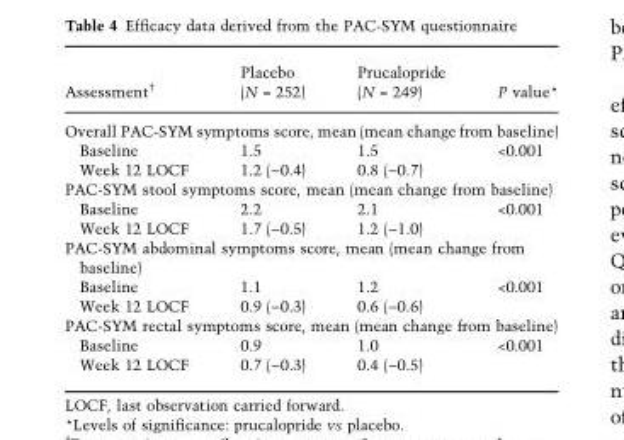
<table><thead><tr><td>Assessment†</td><td>Placebo (N = 252)</td><td>Prucalopride (N = 249)</td><td>P value*</td></tr></thead><tbody><tr><td colspan="4">Overall PAC-SYM symptoms score, mean (mean change from baseline)</td></tr><tr><td>Baseline</td><td>1.5</td><td>1.5</td><td>&lt;0.001</td></tr><tr><td>Week 12 LOCF</td><td>1.2 (−0.4)</td><td>0.8 (−0.7)</td><td></td></tr><tr><td colspan="4">PAC-SYM stool symptoms score, mean (mean change from baseline)</td></tr><tr><td>Baseline</td><td>2.2</td><td>2.1</td><td>&lt;0.001</td></tr><tr><td>Week 12 LOCF</td><td>1.7 (−0.5)</td><td>1.2 (−1.0)</td><td></td></tr><tr><td colspan="4">PAC-SYM abdominal symptoms score, mean (mean change from baseline)</td></tr><tr><td>Baseline</td><td>1.1</td><td>1.2</td><td>&lt;0.001</td></tr><tr><td>Week 12 LOCF</td><td>0.9 (−0.3)</td><td>0.6 (−0.6)</td><td></td></tr><tr><td colspan="4">PAC-SYM rectal symptoms score, mean (mean change from baseline)</td></tr><tr><td>Baseline</td><td>0.9</td><td>1.0</td><td>&lt;0.001</td></tr><tr><td>Week 12 LOCF</td><td>0.7 (−0.3)</td><td>0.4 (−0.5)</td><td></td></tr></tbody></table>